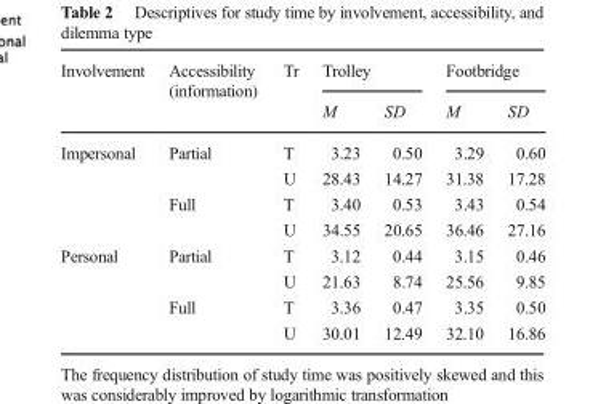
<table><thead><tr><td rowspan="2">Involvement</td><td rowspan="2">Accessibility (information)</td><td rowspan="2">Tr</td><td colspan="2">Trolley</td><td colspan="2">Footbridge</td></tr><tr><td>M</td><td>SD</td><td>M</td><td>SD</td></tr></thead><tbody><tr><td rowspan="4">Impersonal</td><td rowspan="2">Partial</td><td>T</td><td>3.23</td><td>0.50</td><td>3.29</td><td>0.60</td></tr><tr><td>U</td><td>28.43</td><td>14.27</td><td>31.38</td><td>17.28</td></tr><tr><td rowspan="2">Full</td><td>T</td><td>3.40</td><td>0.53</td><td>3.43</td><td>0.54</td></tr><tr><td>U</td><td>34.55</td><td>20.65</td><td>36.46</td><td>27.16</td></tr><tr><td rowspan="4">Personal</td><td rowspan="2">Partial</td><td>T</td><td>3.12</td><td>0.44</td><td>3.15</td><td>0.46</td></tr><tr><td>U</td><td>21.63</td><td>8.74</td><td>25.56</td><td>9.85</td></tr><tr><td rowspan="2">Full</td><td>T</td><td>3.36</td><td>0.47</td><td>3.35</td><td>0.50</td></tr><tr><td>U</td><td>30.01</td><td>12.49</td><td>32.10</td><td>16.86</td></tr></tbody></table>